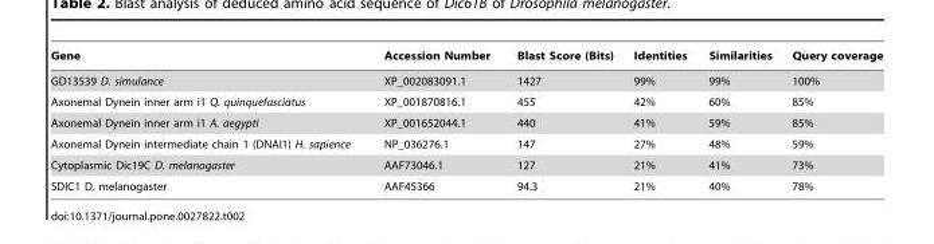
<table><thead><tr><td>Gene</td><td>Accession Number</td><td>Blast Score (Bits)</td><td>Identities</td><td>Similarities</td><td>Query coverage</td></tr></thead><tbody><tr><td>GD13539 D. simulance</td><td>XP_002083091.1</td><td>1427</td><td>99%</td><td>99%</td><td>100%</td></tr><tr><td>Axonemal Dynein inner arm i1 Q. quinquefasciatus</td><td>XP_001870816.1</td><td>455</td><td>42%</td><td>60%</td><td>85%</td></tr><tr><td>Axonemal Dynein inner arm i1 A. aegypti</td><td>XP_001652044.1</td><td>440</td><td>41%</td><td>59%</td><td>85%</td></tr><tr><td>Axonemal Dynein intermediate chain 1 (DNAI1) H. sapience</td><td>NP_036276.1</td><td>147</td><td>27%</td><td>48%</td><td>59%</td></tr><tr><td>Cytoplasmic Dic19C D. melanogaster</td><td>AAF73046.1</td><td>127</td><td>21%</td><td>41%</td><td>73%</td></tr><tr><td>SDIC1 D. melanogaster</td><td>AAF45366</td><td>94.3</td><td>21%</td><td>40%</td><td>78%</td></tr></tbody></table>